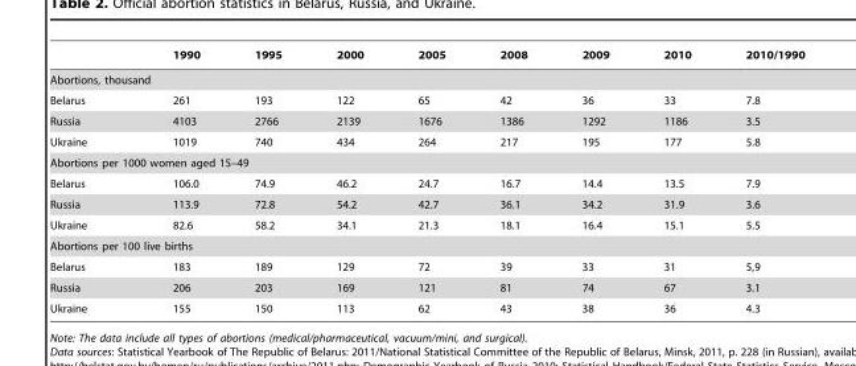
<table><thead><tr><td></td><td>1990</td><td>1995</td><td>2000</td><td>2005</td><td>2008</td><td>2009</td><td>2010</td><td>2010/1990</td></tr></thead><tbody><tr><td colspan="9">Abortions, thousand</td></tr><tr><td>Belarus</td><td>261</td><td>193</td><td>122</td><td>65</td><td>42</td><td>36</td><td>33</td><td>7.8</td></tr><tr><td>Russia</td><td>4103</td><td>2766</td><td>2139</td><td>1676</td><td>1386</td><td>1292</td><td>1186</td><td>3.5</td></tr><tr><td>Ukraine</td><td>1019</td><td>740</td><td>434</td><td>264</td><td>217</td><td>195</td><td>177</td><td>5.8</td></tr><tr><td colspan="9">Abortions per 1000 women aged 15–49</td></tr><tr><td>Belarus</td><td>106.0</td><td>74.9</td><td>46.2</td><td>24.7</td><td>16.7</td><td>14.4</td><td>13.5</td><td>7.9</td></tr><tr><td>Russia</td><td>113.9</td><td>72.8</td><td>54.2</td><td>42.7</td><td>36.1</td><td>34.2</td><td>31.9</td><td>3.6</td></tr><tr><td>Ukraine</td><td>82.6</td><td>58.2</td><td>34.1</td><td>21.3</td><td>18.1</td><td>16.4</td><td>15.1</td><td>5.5</td></tr><tr><td colspan="9">Abortions per 100 live births</td></tr><tr><td>Belarus</td><td>183</td><td>189</td><td>129</td><td>72</td><td>39</td><td>33</td><td>31</td><td>5,9</td></tr><tr><td>Russia</td><td>206</td><td>203</td><td>169</td><td>121</td><td>81</td><td>74</td><td>67</td><td>3.1</td></tr><tr><td>Ukraine</td><td>155</td><td>150</td><td>113</td><td>62</td><td>43</td><td>38</td><td>36</td><td>4.3</td></tr></tbody></table>